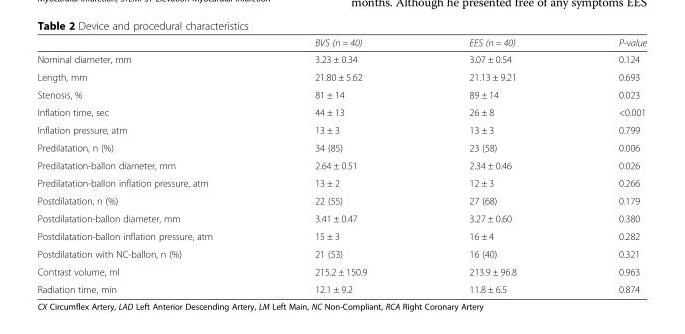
<table><thead><tr><td></td><td>BVS (n = 40)</td><td>EES (n = 40)</td><td>P-value</td></tr></thead><tbody><tr><td>Nominal diameter, mm</td><td>3.23 ± 0.34</td><td>3.07 ± 0.54</td><td>0.124</td></tr><tr><td>Length, mm</td><td>21.80 ± 5.62</td><td>21.13 ± 9.21</td><td>0.693</td></tr><tr><td>Stenosis, %</td><td>81 ± 14</td><td>89 ± 14</td><td>0.023</td></tr><tr><td>Inflation time, sec</td><td>44 ± 13</td><td>26 ± 8</td><td>&lt;0.001</td></tr><tr><td>Inflation pressure, atm</td><td>13 ± 3</td><td>13 ± 3</td><td>0.799</td></tr><tr><td>Predilatation, n (%)</td><td>34 (85)</td><td>23 (58)</td><td>0.006</td></tr><tr><td>Predilatation-ballon diameter, mm</td><td>2.64 ± 0.51</td><td>2.34 ± 0.46</td><td>0.026</td></tr><tr><td>Predilatation-ballon inflation pressure, atm</td><td>13 ± 2</td><td>12 ± 3</td><td>0.266</td></tr><tr><td>Postdilatation, n (%)</td><td>22 (55)</td><td>27 (68)</td><td>0.179</td></tr><tr><td>Postdilatation-ballon diameter, mm</td><td>3.41 ± 0.47</td><td>3.27 ± 0.60</td><td>0.380</td></tr><tr><td>Postdilatation-ballon inflation pressure, atm</td><td>15 ± 3</td><td>16 ± 4</td><td>0.282</td></tr><tr><td>Postdilatation with NC-ballon, n (%)</td><td>21 (53)</td><td>16 (40)</td><td>0.321</td></tr><tr><td>Contrast volume, ml</td><td>215.2 ± 150.9</td><td>213.9 ± 96.8</td><td>0.963</td></tr><tr><td>Radiation time, min</td><td>12.1 ± 9.2</td><td>11.8 ± 6.5</td><td>0.874</td></tr></tbody></table>